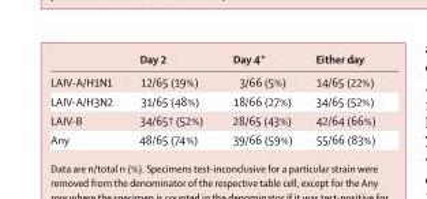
<table><thead><tr><td></td><td>Day 2</td><td>Day 4*</td><td>Either day</td></tr></thead><tbody><tr><td>LAIV-A/H1N1</td><td>12/65 (19%)</td><td>3/66 (5%)</td><td>14/65 (22%)</td></tr><tr><td>LAIV-A/H3N2</td><td>31/65 (48%)</td><td>18/66 (27%)</td><td>34/65 (52%)</td></tr><tr><td>LAIV-B</td><td>34/65† (52%)</td><td>28/65 (43%)</td><td>42/64 (66%)</td></tr><tr><td>Any</td><td>48/65 (74%)</td><td>39/66 (59%)</td><td>55/66 (83%)</td></tr></tbody></table>